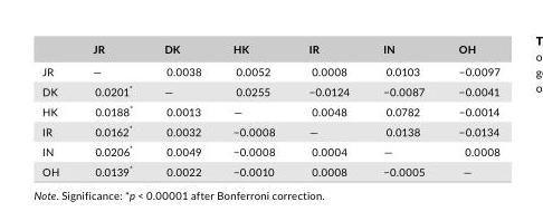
<table><thead><tr><td></td><td>JR</td><td>DK</td><td>HK</td><td>IR</td><td>IN</td><td>OH</td></tr></thead><tbody><tr><td>JR</td><td>—</td><td>0.0038</td><td>0.0052</td><td>0.0008</td><td>0.0103</td><td>−0.0097</td></tr><tr><td>DK</td><td>0.0201*</td><td>—</td><td>0.0255</td><td>−0.0124</td><td>−0.0087</td><td>−0.0041</td></tr><tr><td>HK</td><td>0.0188*</td><td>0.0013</td><td>—</td><td>0.0048</td><td>0.0782</td><td>−0.0014</td></tr><tr><td>IR</td><td>0.0162*</td><td>0.0032</td><td>−0.0008</td><td>—</td><td>0.0138</td><td>−0.0134</td></tr><tr><td>IN</td><td>0.0206*</td><td>0.0049</td><td>−0.0008</td><td>0.0004</td><td>—</td><td>0.0008</td></tr><tr><td>OH</td><td>0.0139*</td><td>0.0022</td><td>−0.0010</td><td>0.0008</td><td>−0.0005</td><td>—</td></tr></tbody></table>